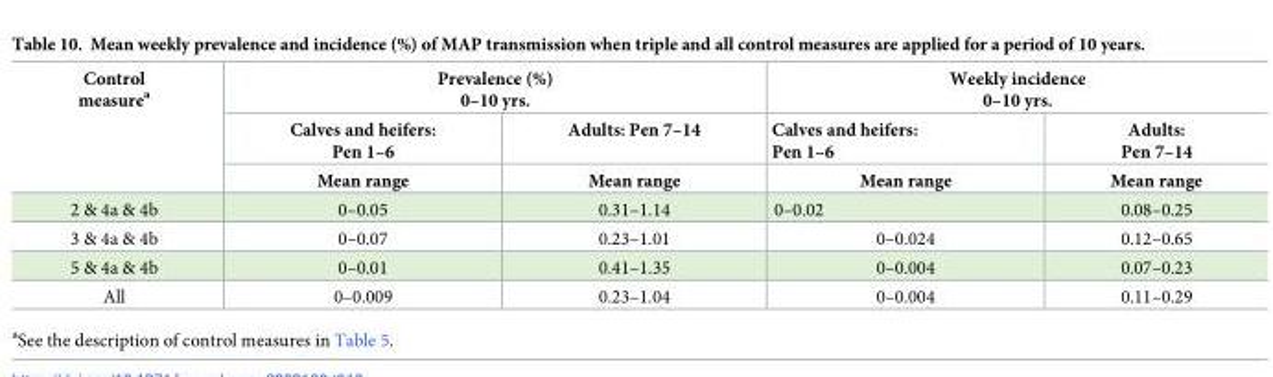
<table><thead><tr><td rowspan="3">Control measure<sup>a</sup></td><td colspan="2">Prevalence (%) 0–10 yrs.</td><td colspan="2">Weekly incidence 0–10 yrs.</td></tr><tr><td rowspan="2">Calves and heifers: Pen 1–6 Mean range</td><td rowspan="2">Adults: Pen 7–14 Mean range</td><td rowspan="2">Calves and heifers: Pen 1–6 Mean range</td><td rowspan="2">Adults: Pen 7–14 Mean range</td></tr><tr></tr></thead><tbody><tr><td>2 &amp; 4a &amp; 4b</td><td>0–0.05</td><td>0.31–1.14</td><td>0–0.02</td><td>0.08–0.25</td></tr><tr><td>3 &amp; 4a &amp; 4b</td><td>0–0.07</td><td>0.23–1.01</td><td>0–0.024</td><td>0.12–0.65</td></tr><tr><td>5 &amp; 4a &amp; 4b</td><td>0–0.01</td><td>0.41–1.35</td><td>0–0.004</td><td>0.07–0.23</td></tr><tr><td>All</td><td>0–0.009</td><td>0.23–1.04</td><td>0–0.004</td><td>0.11–0.29</td></tr></tbody></table>